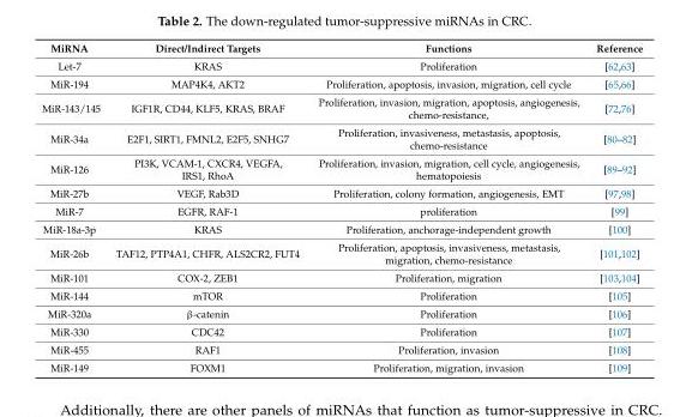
<table><thead><tr><td>MiRNA</td><td>Direct/Indirect Targets</td><td>Functions</td><td>Reference</td></tr></thead><tbody><tr><td>Let-7</td><td>KRAS</td><td>Proliferation</td><td>[62,63]</td></tr><tr><td>MiR-194</td><td>MAP4K4, AKT2</td><td>Proliferation, apoptosis, invasion, migration, cell cycle</td><td>[65,66]</td></tr><tr><td>MiR-143/145</td><td>IGF1R, CD44, KLF5, KRAS, BRAF</td><td>Proliferation, invasion, migration, apoptosis, angiogenesis, chemo-resistance,</td><td>[72,76]</td></tr><tr><td>MiR-34a</td><td>E2F1, SIRT1, FMNL2, E2F5, SNHG7</td><td>Proliferation, invasiveness, metastasis, apoptosis, chemo-resistance</td><td>[80–82]</td></tr><tr><td>MiR-126</td><td>PI3K, VCAM-1, CXCR4, VEGFA, IRS1, RhoA</td><td>Proliferation, invasion, migration, cell cycle, angiogenesis, hematopoiesis</td><td>[89–92]</td></tr><tr><td>MiR-27b</td><td>VEGF, Rab3D</td><td>Proliferation, colony formation, angiogenesis, EMT</td><td>[97,98]</td></tr><tr><td>MiR-7</td><td>EGFR, RAF-1</td><td>proliferation</td><td>[99]</td></tr><tr><td>MiR-18a-3p</td><td>KRAS</td><td>Proliferation, anchorage-independent growth</td><td>[100]</td></tr><tr><td>MiR-26b</td><td>TAF12, PTP4A1, CHFR, ALS2CR2, FUT4</td><td>Proliferation, apoptosis, invasiveness, metastasis, migration, chemo-resistance</td><td>[101,102]</td></tr><tr><td>MiR-101</td><td>COX-2, ZEB1</td><td>Proliferation, migration</td><td>[103,104]</td></tr><tr><td>MiR-144</td><td>mTOR</td><td>Proliferation</td><td>[105]</td></tr><tr><td>MiR-320a</td><td>β-catenin</td><td>Proliferation</td><td>[106]</td></tr><tr><td>MiR-330</td><td>CDC42</td><td>Proliferation</td><td>[107]</td></tr><tr><td>MiR-455</td><td>RAF1</td><td>Proliferation, invasion</td><td>[108]</td></tr><tr><td>MiR-149</td><td>FOXM1</td><td>Proliferation, migration, invasion</td><td>[109]</td></tr></tbody></table>